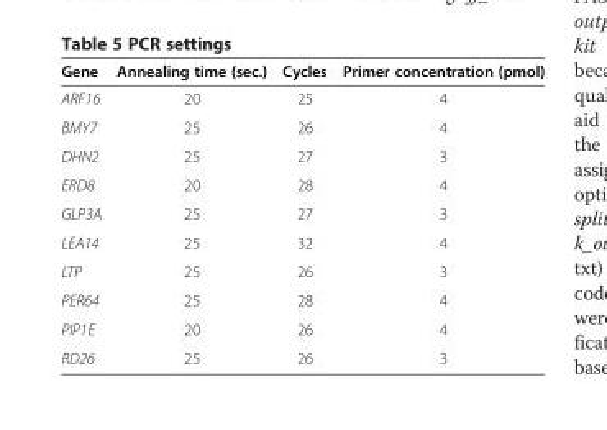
<table><thead><tr><td>Gene</td><td>Annealing time (sec.)</td><td>Cycles</td><td>Primer concentration (pmol)</td></tr></thead><tbody><tr><td>ARF16</td><td>20</td><td>25</td><td>4</td></tr><tr><td>BMY7</td><td>25</td><td>26</td><td>4</td></tr><tr><td>DHN2</td><td>25</td><td>27</td><td>3</td></tr><tr><td>ERD8</td><td>20</td><td>28</td><td>4</td></tr><tr><td>GLP3A</td><td>25</td><td>27</td><td>3</td></tr><tr><td>LEA14</td><td>25</td><td>32</td><td>4</td></tr><tr><td>LTP</td><td>25</td><td>26</td><td>3</td></tr><tr><td>PER64</td><td>25</td><td>28</td><td>4</td></tr><tr><td>PIP1E</td><td>20</td><td>26</td><td>4</td></tr><tr><td>RD26</td><td>25</td><td>26</td><td>3</td></tr></tbody></table>